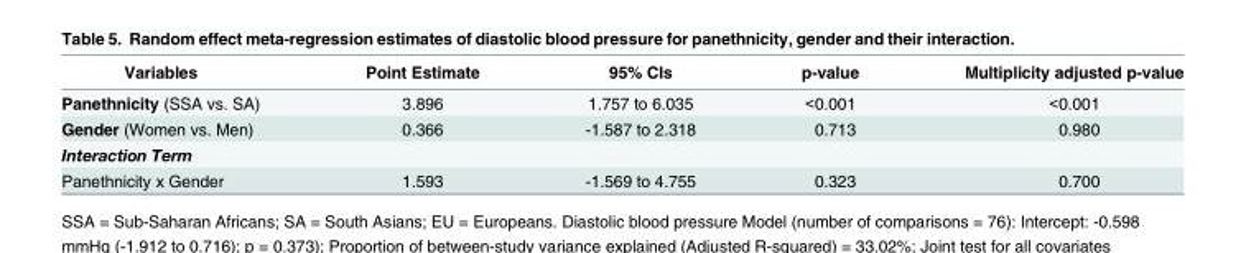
<table><thead><tr><td>Variables</td><td>Point Estimate</td><td>95% CIs</td><td>p-value</td><td>Multiplicity adjusted p-value</td></tr></thead><tbody><tr><td>Panethnicity (SSA vs. SA)</td><td>3.896</td><td>1.757 to 6.035</td><td>&lt;0.001</td><td>&lt;0.001</td></tr><tr><td>Gender (Women vs. Men)</td><td>0.366</td><td>-1.587 to 2.318</td><td>0.713</td><td>0.980</td></tr><tr><td colspan="5">Interaction Term</td></tr><tr><td>Panethnicity x Gender</td><td>1.593</td><td>-1.569 to 4.755</td><td>0.323</td><td>0.700</td></tr></tbody></table>